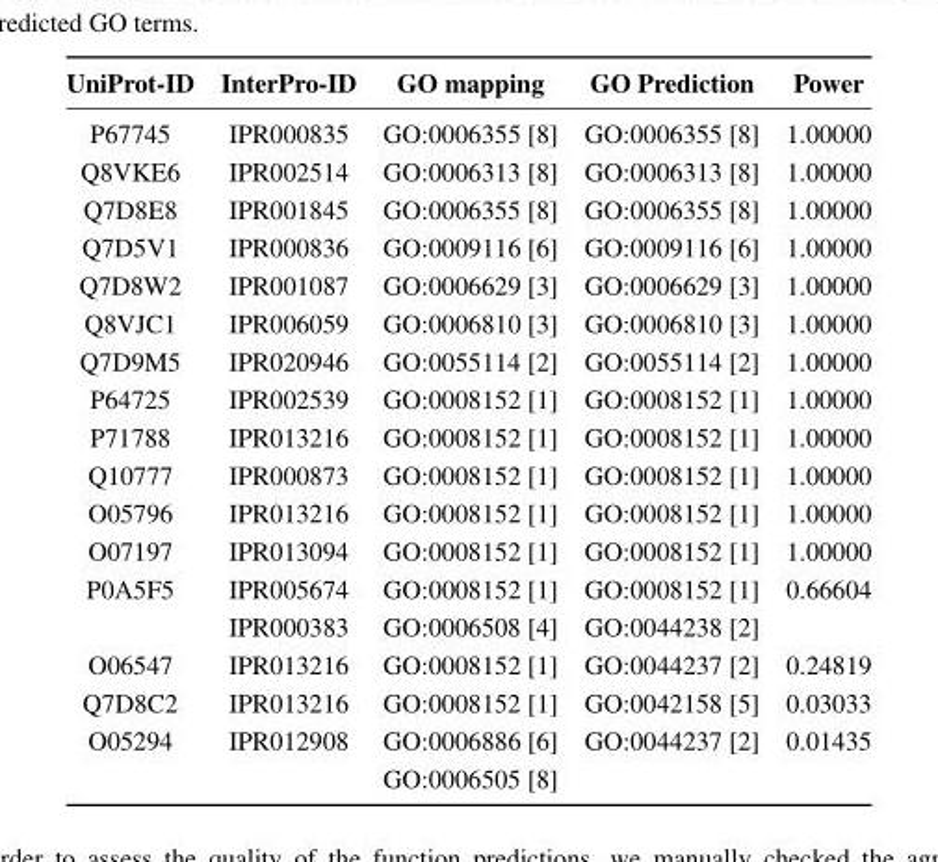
<table><thead><tr><td>UniProt-ID</td><td>InterPro-ID</td><td>GO mapping</td><td>GO Prediction</td><td>Power</td></tr></thead><tbody><tr><td>P67745</td><td>IPR000835</td><td>GO:0006355 [8]</td><td>GO:0006355 [8]</td><td>1.00000</td></tr><tr><td>Q8VKE6</td><td>IPR002514</td><td>GO:0006313 [8]</td><td>GO:0006313 [8]</td><td>1.00000</td></tr><tr><td>Q7D8E8</td><td>IPR001845</td><td>GO:0006355 [8]</td><td>GO:0006355 [8]</td><td>1.00000</td></tr><tr><td>Q7D5V1</td><td>IPR000836</td><td>GO:0009116 [6]</td><td>GO:0009116 [6]</td><td>1.00000</td></tr><tr><td>Q7D8W2</td><td>IPR001087</td><td>GO:0006629 [3]</td><td>GO:0006629 [3]</td><td>1.00000</td></tr><tr><td>Q8VJC1</td><td>IPR006059</td><td>GO:0006810 [3]</td><td>GO:0006810 [3]</td><td>1.00000</td></tr><tr><td>Q7D9M5</td><td>IPR020946</td><td>GO:0055114 [2]</td><td>GO:0055114 [2]</td><td>1.00000</td></tr><tr><td>P64725</td><td>IPR002539</td><td>GO:0008152 [1]</td><td>GO:0008152 [1]</td><td>1.00000</td></tr><tr><td>P71788</td><td>IPR013216</td><td>GO:0008152 [1]</td><td>GO:0008152 [1]</td><td>1.00000</td></tr><tr><td>Q10777</td><td>IPR000873</td><td>GO:0008152 [1]</td><td>GO:0008152 [1]</td><td>1.00000</td></tr><tr><td>O05796</td><td>IPR013216</td><td>GO:0008152 [1]</td><td>GO:0008152 [1]</td><td>1.00000</td></tr><tr><td>O07197</td><td>IPR013094</td><td>GO:0008152 [1]</td><td>GO:0008152 [1]</td><td>1.00000</td></tr><tr><td rowspan="2">P0A5F5</td><td>IPR005674</td><td>GO:0008152 [1]</td><td>GO:0008152 [1]</td><td>0.66604</td></tr><tr><td>IPR000383</td><td>GO:0006508 [4]</td><td>GO:0044238 [2]</td><td></td></tr><tr><td>O06547</td><td>IPR013216</td><td>GO:0008152 [1]</td><td>GO:0044237 [2]</td><td>0.24819</td></tr><tr><td>Q7D8C2</td><td>IPR013216</td><td>GO:0008152 [1]</td><td>GO:0042158 [5]</td><td>0.03033</td></tr><tr><td rowspan="2">O05294</td><td>IPR012908</td><td>GO:0006886 [6]</td><td>GO:0044237 [2]</td><td>0.01435</td></tr><tr><td></td><td>GO:0006505 [8]</td><td></td><td></td></tr></tbody></table>